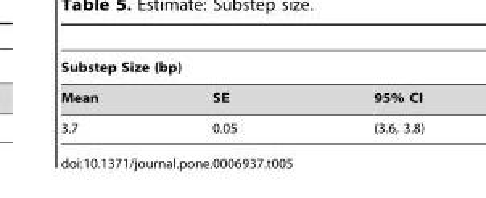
<table><thead><tr><td colspan="3">Substep Size (bp)</td></tr><tr><td>Mean</td><td>SE</td><td>95% CI</td></tr></thead><tbody><tr><td>3.7</td><td>0.05</td><td>(3.6, 3.8)</td></tr></tbody></table>